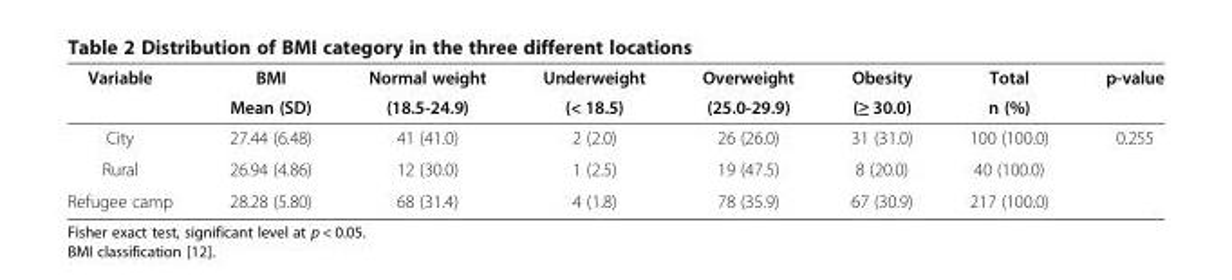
<table><thead><tr><td rowspan="2">Variable</td><td rowspan="2">BMI Mean (SD)</td><td rowspan="2">Normal weight (18.5-24.9)</td><td rowspan="2">Underweight (&lt; 18.5)</td><td rowspan="2">Overweight (25.0-29.9)</td><td rowspan="2">Obesity (≥ 30.0)</td><td rowspan="2">Total n (%)</td><td rowspan="2">p-value</td></tr><tr></tr></thead><tbody><tr><td>City</td><td>27.44 (6.48)</td><td>41 (41.0)</td><td>2 (2.0)</td><td>26 (26.0)</td><td>31 (31.0)</td><td>100 (100.0)</td><td>0.255</td></tr><tr><td>Rural</td><td>26.94 (4.86)</td><td>12 (30.0)</td><td>1 (2.5)</td><td>19 (47.5)</td><td>8 (20.0)</td><td>40 (100.0)</td><td></td></tr><tr><td>Refugee camp</td><td>28.28 (5.80)</td><td>68 (31.4)</td><td>4 (1.8)</td><td>78 (35.9)</td><td>67 (30.9)</td><td>217 (100.0)</td><td></td></tr></tbody></table>